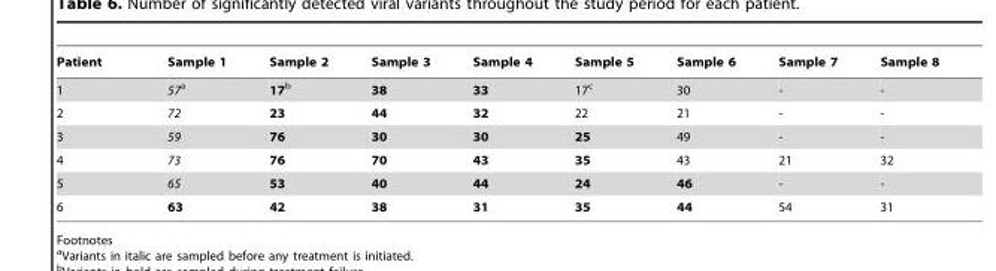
<table><thead><tr><td>Patient</td><td>Sample 1</td><td>Sample 2</td><td>Sample 3</td><td>Sample 4</td><td>Sample 5</td><td>Sample 6</td><td>Sample 7</td><td>Sample 8</td></tr></thead><tbody><tr><td>1</td><td>57a</td><td>17b</td><td>38</td><td>33</td><td>17<sup>c</sup></td><td>30</td><td>-</td><td>-</td></tr><tr><td>2</td><td>72</td><td>23</td><td>44</td><td>32</td><td>22</td><td>21</td><td>-</td><td>-</td></tr><tr><td>3</td><td>59</td><td>76</td><td>30</td><td>30</td><td>25</td><td>49</td><td>-</td><td>-</td></tr><tr><td>4</td><td>73</td><td>76</td><td>70</td><td>43</td><td>35</td><td>43</td><td>21</td><td>32</td></tr><tr><td>5</td><td>65</td><td>53</td><td>40</td><td>44</td><td>24</td><td>46</td><td>-</td><td>-</td></tr><tr><td>6</td><td>63</td><td>42</td><td>38</td><td>31</td><td>35</td><td>44</td><td>54</td><td>31</td></tr></tbody></table>